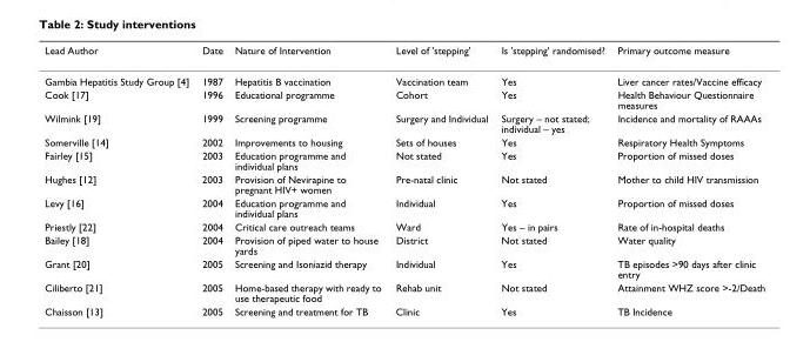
<table><thead><tr><td>Lead Author</td><td>Date</td><td>Nature of Intervention</td><td>Level of &#x27;stepping&#x27;</td><td>Is &#x27;stepping&#x27; randomised?</td><td>Primary outcome measure</td></tr></thead><tbody><tr><td>Gambia Hepatitis Study Group [4]</td><td>1987</td><td>Hepatitis B vaccination</td><td>Vaccination team</td><td>Yes</td><td>Liver cancer rates/Vaccine efficacy</td></tr><tr><td>Cook [17]</td><td>1996</td><td>Educational programme</td><td>Cohort</td><td>Yes</td><td>Health Behaviour Questionnaire measures</td></tr><tr><td>Wilmink [19]</td><td>1999</td><td>Screening programme</td><td>Surgery and Individual</td><td>Surgery – not stated; individual – yes</td><td>Incidence and mortality of RAAAs</td></tr><tr><td>Somerville [14]</td><td>2002</td><td>Improvements to housing</td><td>Sets of houses</td><td>Yes</td><td>Respiratory Health Symptoms</td></tr><tr><td>Fairley [15]</td><td>2003</td><td>Education programme and individual plans</td><td>Not stated</td><td>Yes</td><td>Proportion of missed doses</td></tr><tr><td>Hughes [12]</td><td>2003</td><td>Provision of Nevirapine to pregnant HIV+ women</td><td>Pre-natal clinic</td><td>Not stated</td><td>Mother to child HIV transmission</td></tr><tr><td>Levy [16]</td><td>2004</td><td>Education programme and individual plans</td><td>Individual</td><td>Yes</td><td>Proportion of missed doses</td></tr><tr><td>Priestly [22]</td><td>2004</td><td>Critical care outreach teams</td><td>Ward</td><td>Yes – in pairs</td><td>Rate of in-hospital deaths</td></tr><tr><td>Bailey [18]</td><td>2004</td><td>Provision of piped water to house yards</td><td>District</td><td>Not stated</td><td>Water quality</td></tr><tr><td>Grant [20]</td><td>2005</td><td>Screening and Isoniazid therapy</td><td>Individual</td><td>Yes</td><td>TB episodes &gt;90 days after clinic entry</td></tr><tr><td>Ciliberto [21]</td><td>2005</td><td>Home-based therapy with ready to use therapeutic food</td><td>Rehab unit</td><td>Not stated</td><td>Attainment WHZ score &gt;-2/Death</td></tr><tr><td>Chaisson [13]</td><td>2005</td><td>Screening and treatment for TB</td><td>Clinic</td><td>Yes</td><td>TB Incidence</td></tr></tbody></table>